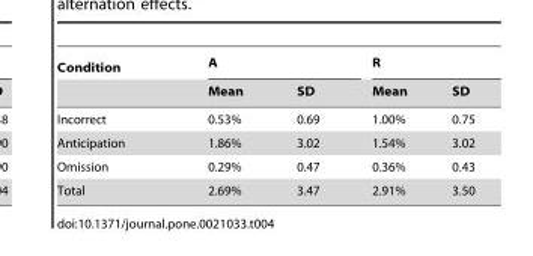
<table><thead><tr><td rowspan="2">Condition</td><td colspan="2">A</td><td colspan="2">R</td></tr><tr><td>Mean</td><td>SD</td><td>Mean</td><td>SD</td></tr></thead><tbody><tr><td>Incorrect</td><td>0.53%</td><td>0.69</td><td>1.00%</td><td>0.75</td></tr><tr><td>Anticipation</td><td>1.86%</td><td>3.02</td><td>1.54%</td><td>3.02</td></tr><tr><td>Omission</td><td>0.29%</td><td>0.47</td><td>0.36%</td><td>0.43</td></tr><tr><td>Total</td><td>2.69%</td><td>3.47</td><td>2.91%</td><td>3.50</td></tr></tbody></table>